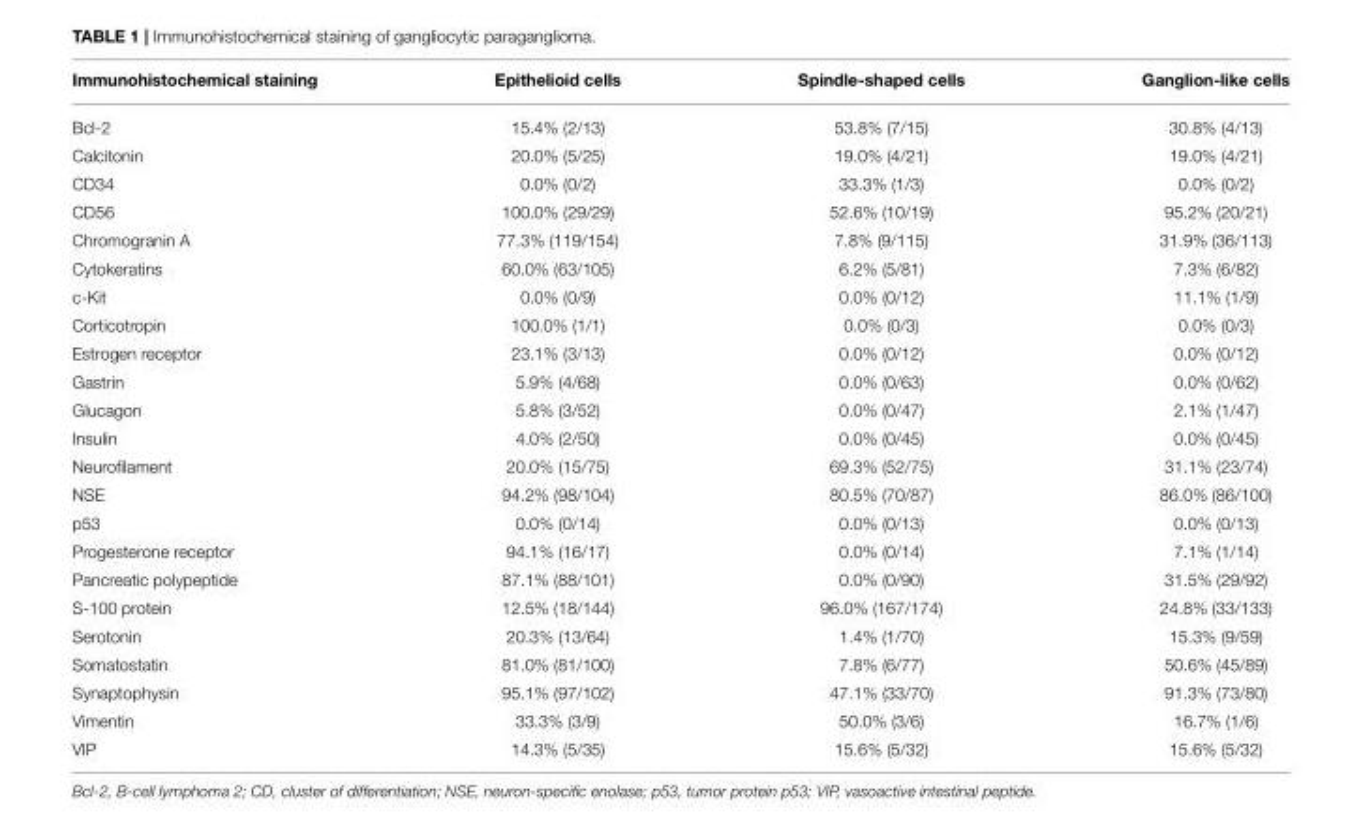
<table><thead><tr><td>Immunohistochemical staining</td><td>Epithelioid cells</td><td>Spindle-shaped cells</td><td>Ganglion-like cells</td></tr></thead><tbody><tr><td>Bcl-2</td><td>15.4% (2/13)</td><td>53.8% (7/15)</td><td>30.8% (4/13)</td></tr><tr><td>Calcitonin</td><td>20.0% (5/25)</td><td>19.0% (4/21)</td><td>19.0% (4/21)</td></tr><tr><td>CD34</td><td>0.0% (0/2)</td><td>33.3% (1/3)</td><td>0.0% (0/2)</td></tr><tr><td>CD56</td><td>100.0% (29/29)</td><td>52.6% (10/19)</td><td>95.2% (20/21)</td></tr><tr><td>Chromogranin A</td><td>77.3% (119/154)</td><td>7.8% (9/115)</td><td>31.9% (36/113)</td></tr><tr><td>Cytokeratins</td><td>60.0% (63/105)</td><td>6.2% (5/81)</td><td>7.3% (6/82)</td></tr><tr><td>c-Kit</td><td>0.0% (0/9)</td><td>0.0% (0/12)</td><td>11.1% (1/9)</td></tr><tr><td>Corticotropin</td><td>100.0% (1/1)</td><td>0.0% (0/3)</td><td>0.0% (0/3)</td></tr><tr><td>Estrogen receptor</td><td>23.1% (3/13)</td><td>0.0% (0/12)</td><td>0.0% (0/12)</td></tr><tr><td>Gastrin</td><td>5.9% (4/68)</td><td>0.0% (0/63)</td><td>0.0% (0/62)</td></tr><tr><td>Glucagon</td><td>5.8% (3/52)</td><td>0.0% (0/47)</td><td>2.1% (1/47)</td></tr><tr><td>Insulin</td><td>4.0% (2/50)</td><td>0.0% (0/45)</td><td>0.0% (0/45)</td></tr><tr><td>Neurofilament</td><td>20.0% (15/75)</td><td>69.3% (52/75)</td><td>31.1% (23/74)</td></tr><tr><td>NSE</td><td>94.2% (98/104)</td><td>80.5% (70/87)</td><td>86.0% (86/100)</td></tr><tr><td>p53</td><td>0.0% (0/14)</td><td>0.0% (0/13)</td><td>0.0% (0/13)</td></tr><tr><td>Progesterone receptor</td><td>94.1% (16/17)</td><td>0.0% (0/14)</td><td>7.1% (1/14)</td></tr><tr><td>Pancreatic polypeptide</td><td>87.1% (88/101)</td><td>0.0% (0/90)</td><td>31.5% (29/92)</td></tr><tr><td>S-100 protein</td><td>12.5% (18/144)</td><td>96.0% (167/174)</td><td>24.8% (33/133)</td></tr><tr><td>Serotonin</td><td>20.3% (13/64)</td><td>1.4% (1/70)</td><td>15.3% (9/59)</td></tr><tr><td>Somatostatin</td><td>81.0% (81/100)</td><td>7.8% (6/77)</td><td>50.6% (45/89)</td></tr><tr><td>Synaptophysin</td><td>95.1% (97/102)</td><td>47.1% (33/70)</td><td>91.3% (73/80)</td></tr><tr><td>Vimentin</td><td>33.3% (3/9)</td><td>50.0% (3/6)</td><td>16.7% (1/6)</td></tr><tr><td>VIP</td><td>14.3% (5/35)</td><td>15.6% (5/32)</td><td>15.6% (5/32)</td></tr></tbody></table>